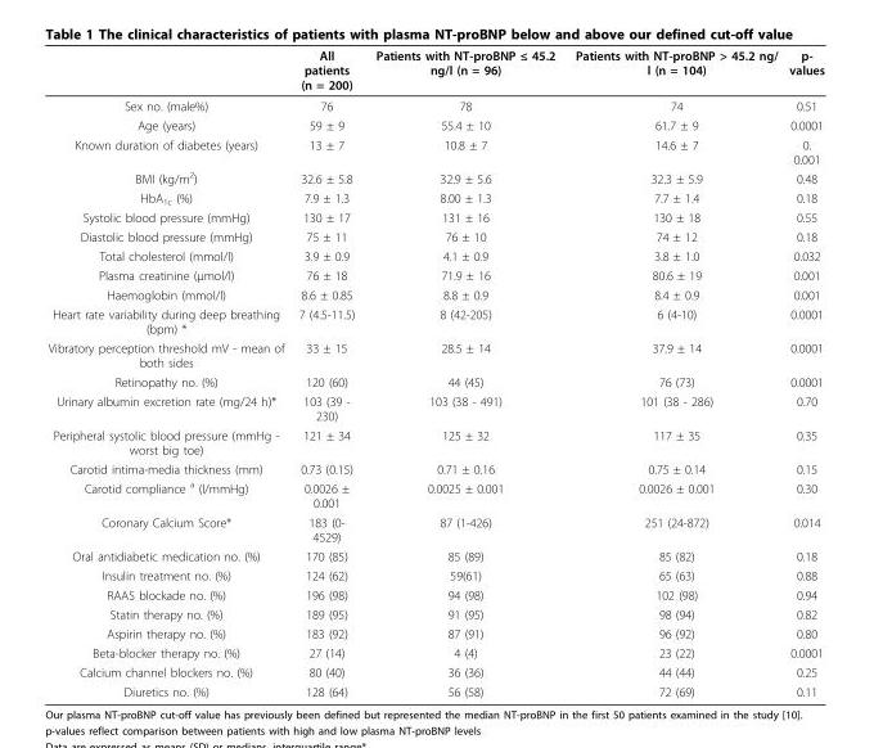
<table><thead><tr><td></td><td>All patients (n = 200)</td><td>Patients with NT-proBNP ≤ 45.2 ng/l (n = 96)</td><td>Patients with NT-proBNP &gt; 45.2 ng/ l (n = 104)</td><td>p- values</td></tr></thead><tbody><tr><td>Sex no. (male%)</td><td>76</td><td>78</td><td>74</td><td>0.51</td></tr><tr><td>Age (years)</td><td>59 ± 9</td><td>55.4 ± 10</td><td>61.7 ± 9</td><td>0.0001</td></tr><tr><td>Known duration of diabetes (years)</td><td>13 ± 7</td><td>10.8 ± 7</td><td>14.6 ± 7</td><td>0. 0.001</td></tr><tr><td>BMI (kg/m<sup>2</sup>)</td><td>32.6 ± 5.8</td><td>32.9 ± 5.6</td><td>32.3 ± 5.9</td><td>0.48</td></tr><tr><td>HbA<sub>1c</sub> (%)</td><td>7.9 ± 1.3</td><td>8.00 ± 1.3</td><td>7.7 ± 1.4</td><td>0.18</td></tr><tr><td>Systolic blood pressure (mmHg)</td><td>130 ± 17</td><td>131 ± 16</td><td>130 ± 18</td><td>0.55</td></tr><tr><td>Diastolic blood pressure (mmHg)</td><td>75 ± 11</td><td>76 ± 10</td><td>74 ± 12</td><td>0.18</td></tr><tr><td>Total cholesterol (mmol/l)</td><td>3.9 ± 0.9</td><td>4.1 ± 0.9</td><td>3.8 ± 1.0</td><td>0.032</td></tr><tr><td>Plasma creatinine (μmol/l)</td><td>76 ± 18</td><td>71.9 ± 16</td><td>80.6 ± 19</td><td>0.001</td></tr><tr><td>Haemoglobin (mmol/l)</td><td>8.6 ± 0.85</td><td>8.8 ± 0.9</td><td>8.4 ± 0.9</td><td>0.001</td></tr><tr><td>Heart rate variability during deep breathing (bpm) *</td><td>7 (4.5-11.5)</td><td>8 (42-205)</td><td>6 (4-10)</td><td>0.0001</td></tr><tr><td>Vibratory perception threshold mV - mean of both sides</td><td>33 ± 15</td><td>28.5 ± 14</td><td>37.9 ± 14</td><td>0.0001</td></tr><tr><td>Retinopathy no. (%)</td><td>120 (60)</td><td>44 (45)</td><td>76 (73)</td><td>0.0001</td></tr><tr><td>Urinary albumin excretion rate (mg/24 h)*</td><td>103 (39 - 230)</td><td>103 (38 - 491)</td><td>101 (38 - 286)</td><td>0.70</td></tr><tr><td>Peripheral systolic blood pressure (mmHg - worst big toe)</td><td>121 ± 34</td><td>125 ± 32</td><td>117 ± 35</td><td>0.35</td></tr><tr><td>Carotid intima-media thickness (mm)</td><td>0.73 (0.15)</td><td>0.71 ± 0.16</td><td>0.75 ± 0.14</td><td>0.15</td></tr><tr><td>Carotid compliance <sup>a</sup> (l/mmHg)</td><td>0.0026 ± 0.001</td><td>0.0025 ± 0.001</td><td>0.0026 ± 0.001</td><td>0.30</td></tr><tr><td>Coronary Calcium Score*</td><td>183 (0- 4529)</td><td>87 (1-426)</td><td>251 (24-872)</td><td>0.014</td></tr><tr><td>Oral antidiabetic medication no. (%)</td><td>170 (85)</td><td>85 (89)</td><td>85 (82)</td><td>0.18</td></tr><tr><td>Insulin treatment no. (%)</td><td>124 (62)</td><td>59(61)</td><td>65 (63)</td><td>0.88</td></tr><tr><td>RAAS blockade no. (%)</td><td>196 (98)</td><td>94 (98)</td><td>102 (98)</td><td>0.94</td></tr><tr><td>Statin therapy no. (%)</td><td>189 (95)</td><td>91 (95)</td><td>98 (94)</td><td>0.82</td></tr><tr><td>Aspirin therapy no. (%)</td><td>183 (92)</td><td>87 (91)</td><td>96 (92)</td><td>0.80</td></tr><tr><td>Beta-blocker therapy no. (%)</td><td>27 (14)</td><td>4 (4)</td><td>23 (22)</td><td>0.0001</td></tr><tr><td>Calcium channel blockers no. (%)</td><td>80 (40)</td><td>36 (36)</td><td>44 (44)</td><td>0.25</td></tr><tr><td>Diuretics no. (%)</td><td>128 (64)</td><td>56 (58)</td><td>72 (69)</td><td>0.11</td></tr></tbody></table>